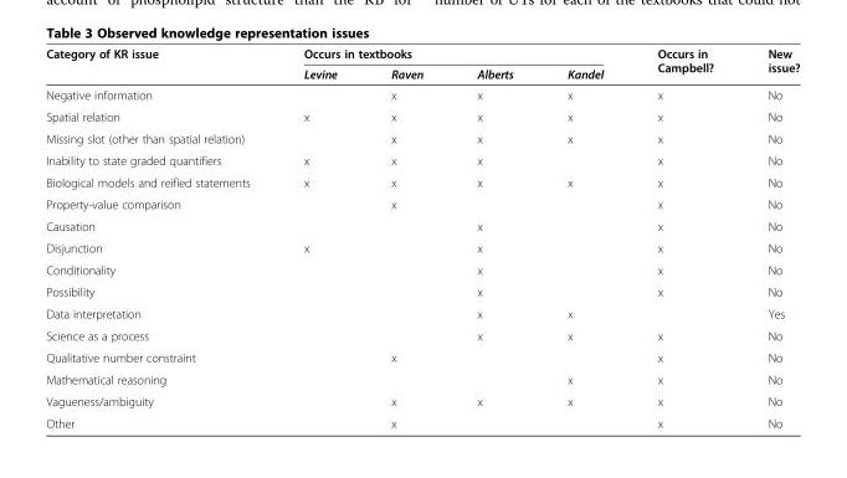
<table><thead><tr><td rowspan="2">Category of KR issue</td><td colspan="4">Occurs in textbooks</td><td rowspan="2">Occurs in Campbell?</td><td rowspan="2">New issue?</td></tr><tr><td>Levine</td><td>Raven</td><td>Alberts</td><td>Kandel</td></tr></thead><tbody><tr><td>Negative information</td><td></td><td>x</td><td>x</td><td>x</td><td>x</td><td>No</td></tr><tr><td>Spatial relation</td><td>x</td><td>x</td><td>x</td><td>x</td><td>x</td><td>No</td></tr><tr><td>Missing slot (other than spatial relation)</td><td></td><td>x</td><td>x</td><td>x</td><td>x</td><td>No</td></tr><tr><td>Inability to state graded quantifiers</td><td>x</td><td>x</td><td>x</td><td></td><td>x</td><td>No</td></tr><tr><td>Biological models and reified statements</td><td>x</td><td>x</td><td>x</td><td>x</td><td>x</td><td>No</td></tr><tr><td>Property-value comparison</td><td></td><td>x</td><td></td><td></td><td>x</td><td>No</td></tr><tr><td>Causation</td><td></td><td></td><td>x</td><td></td><td>x</td><td>No</td></tr><tr><td>Disjunction</td><td>x</td><td></td><td>x</td><td></td><td>x</td><td>No</td></tr><tr><td>Conditionality</td><td></td><td></td><td>x</td><td></td><td>x</td><td>No</td></tr><tr><td>Possibility</td><td></td><td></td><td>x</td><td></td><td>x</td><td>No</td></tr><tr><td>Data interpretation</td><td></td><td></td><td>x</td><td>x</td><td></td><td>Yes</td></tr><tr><td>Science as a process</td><td></td><td></td><td>x</td><td>x</td><td>x</td><td>No</td></tr><tr><td>Qualitative number constraint</td><td></td><td>x</td><td></td><td></td><td>x</td><td>No</td></tr><tr><td>Mathematical reasoning</td><td></td><td></td><td></td><td>x</td><td>x</td><td>No</td></tr><tr><td>Vagueness/ambiguity</td><td></td><td>x</td><td>x</td><td>x</td><td>x</td><td>No</td></tr><tr><td>Other</td><td></td><td>x</td><td></td><td></td><td>x</td><td>No</td></tr></tbody></table>